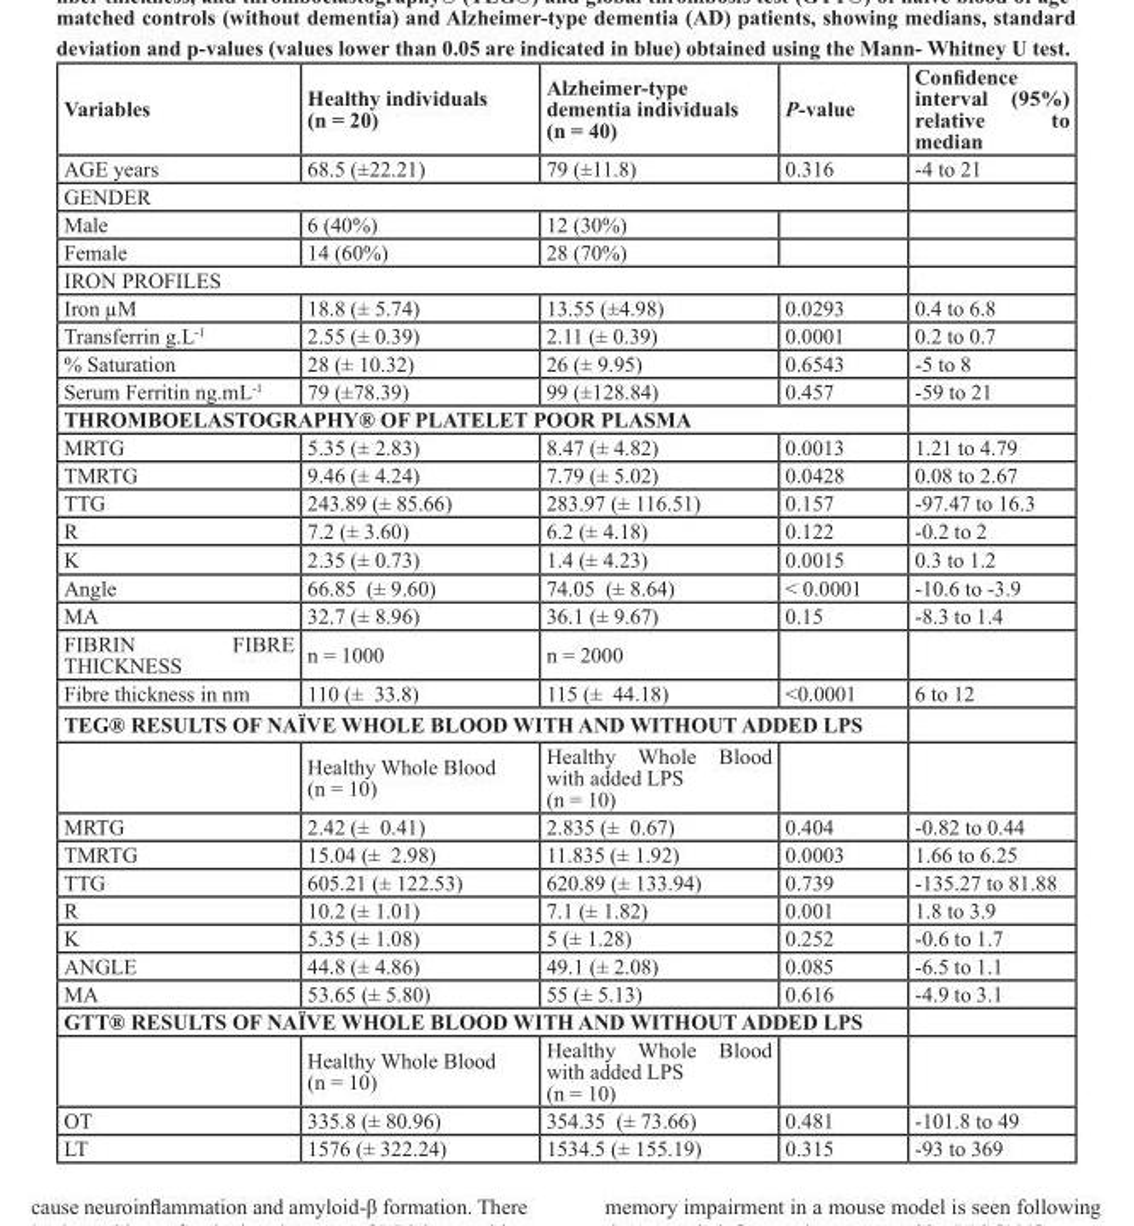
<table><thead><tr><td>Variables</td><td>Healthy individuals (n = 20)</td><td>Alzheimer-type dementia individuals (n = 40)</td><td>P-value</td><td>Confidence interval (95%) relative to median</td></tr></thead><tbody><tr><td>AGE years</td><td>68.5 (±22.21)</td><td>79 (±11.8)</td><td>0.316</td><td>-4 to 21</td></tr><tr><td colspan="5">GENDER</td></tr><tr><td>Male</td><td>6 (40%)</td><td>12 (30%)</td><td></td><td></td></tr><tr><td>Female</td><td>14 (60%)</td><td>28 (70%)</td><td></td><td></td></tr><tr><td colspan="5">IRON PROFILES</td></tr><tr><td>Iron µM</td><td>18.8 (± 5.74)</td><td>13.55 (±4.98)</td><td>0.0293</td><td>0.4 to 6.8</td></tr><tr><td>Transferrin g.L<sup>-1</sup></td><td>2.55 (± 0.39)</td><td>2.11 (± 0.39)</td><td>0.0001</td><td>0.2 to 0.7</td></tr><tr><td>% Saturation</td><td>28 (± 10.32)</td><td>26 (± 9.95)</td><td>0.6543</td><td>-5 to 8</td></tr><tr><td>Serum Ferritin ng.mL<sup>-1</sup></td><td>79 (±78.39)</td><td>99 (±128.84)</td><td>0.457</td><td>-59 to 21</td></tr><tr><td colspan="5">THROMBOELASTOGRAPHY® OF PLATELET POOR PLASMA</td></tr><tr><td>MRTG</td><td>5.35 (± 2.83)</td><td>8.47 (± 4.82)</td><td>0.0013</td><td>1.21 to 4.79</td></tr><tr><td>TMRTG</td><td>9.46 (± 4.24)</td><td>7.79 (± 5.02)</td><td>0.0428</td><td>0.08 to 2.67</td></tr><tr><td>TTG</td><td>243.89 (± 85.66)</td><td>283.97 (± 116.51)</td><td>0.157</td><td>-97.47 to 16.3</td></tr><tr><td>R</td><td>7.2 (± 3.60)</td><td>6.2 (± 4.18)</td><td>0.122</td><td>-0.2 to 2</td></tr><tr><td>K</td><td>2.35 (± 0.73)</td><td>1.4 (± 4.23)</td><td>0.0015</td><td>0.3 to 1.2</td></tr><tr><td>Angle</td><td>66.85 (± 9.60)</td><td>74.05 (± 8.64)</td><td>&lt; 0.0001</td><td>-10.6 to -3.9</td></tr><tr><td>MA</td><td>32.7 (± 8.96)</td><td>36.1 (± 9.67)</td><td>0.15</td><td>-8.3 to 1.4</td></tr><tr><td>FIBRIN FIBRE THICKNESS</td><td>n = 1000</td><td>n = 2000</td><td></td><td></td></tr><tr><td>Fibre thickness in nm</td><td>110 (± 33.8)</td><td>115 (± 44.18)</td><td>&lt;0.0001</td><td>6 to 12</td></tr><tr><td colspan="5">TEG® RESULTS OF NAÏVE WHOLE BLOOD WITH AND WITHOUT ADDED LPS</td></tr><tr><td></td><td>Healthy Whole Blood (n = 10)</td><td>Healthy Whole Blood with added LPS (n = 10)</td><td></td><td></td></tr><tr><td>MRTG</td><td>2.42 (± 0.41)</td><td>2.835 (± 0.67)</td><td>0.404</td><td>-0.82 to 0.44</td></tr><tr><td>TMRTG</td><td>15.04 (± 2.98)</td><td>11.835 (± 1.92)</td><td>0.0003</td><td>1.66 to 6.25</td></tr><tr><td>TTG</td><td>605.21 (± 122.53)</td><td>620.89 (± 133.94)</td><td>0.739</td><td>-135.27 to 81.88</td></tr><tr><td>R</td><td>10.2 (± 1.01)</td><td>7.1 (± 1.82)</td><td>0.001</td><td>1.8 to 3.9</td></tr><tr><td>K</td><td>5.35 (± 1.08)</td><td>5 (± 1.28)</td><td>0.252</td><td>-0.6 to 1.7</td></tr><tr><td>ANGLE</td><td>44.8 (± 4.86)</td><td>49.1 (± 2.08)</td><td>0.085</td><td>-6.5 to 1.1</td></tr><tr><td>MA</td><td>53.65 (± 5.80)</td><td>55 (± 5.13)</td><td>0.616</td><td>-4.9 to 3.1</td></tr><tr><td colspan="5">GTT® RESULTS OF NAÏVE WHOLE BLOOD WITH AND WITHOUT ADDED LPS</td></tr><tr><td></td><td>Healthy Whole Blood (n = 10)</td><td>Healthy Whole Blood with added LPS (n = 10)</td><td></td><td></td></tr><tr><td>OT</td><td>335.8 (± 80.96)</td><td>354.35 (± 73.66)</td><td>0.481</td><td>-101.8 to 49</td></tr><tr><td>LT</td><td>1576 (± 322.24)</td><td>1534.5 (± 155.19)</td><td>0.315</td><td>-93 to 369</td></tr></tbody></table>